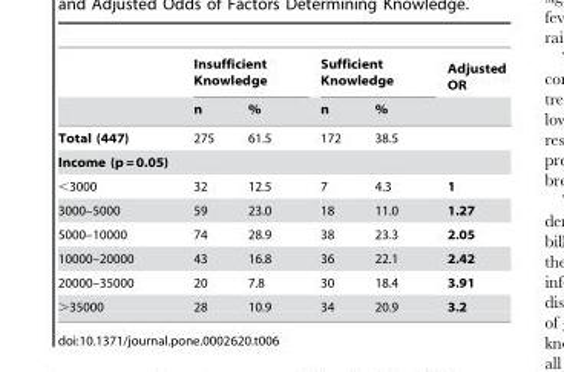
<table><thead><tr><td rowspan="2"></td><td colspan="2">Insufficient Knowledge</td><td colspan="2">Sufficient Knowledge</td><td rowspan="2">Adjusted OR</td></tr><tr><td>n</td><td>%</td><td>n</td><td>%</td></tr></thead><tbody><tr><td>Total (447)</td><td>275</td><td>61.5</td><td>172</td><td>38.5</td><td></td></tr><tr><td colspan="6">Income (p = 0.05)</td></tr><tr><td>&lt;3000</td><td>32</td><td>12.5</td><td>7</td><td>4.3</td><td>1</td></tr><tr><td>3000–5000</td><td>59</td><td>23.0</td><td>18</td><td>11.0</td><td>1.27</td></tr><tr><td>5000–10000</td><td>74</td><td>28.9</td><td>38</td><td>23.3</td><td>2.05</td></tr><tr><td>10000–20000</td><td>43</td><td>16.8</td><td>36</td><td>22.1</td><td>2.42</td></tr><tr><td>20000–35000</td><td>20</td><td>7.8</td><td>30</td><td>18.4</td><td>3.91</td></tr><tr><td>&gt;35000</td><td>28</td><td>10.9</td><td>34</td><td>20.9</td><td>3.2</td></tr></tbody></table>